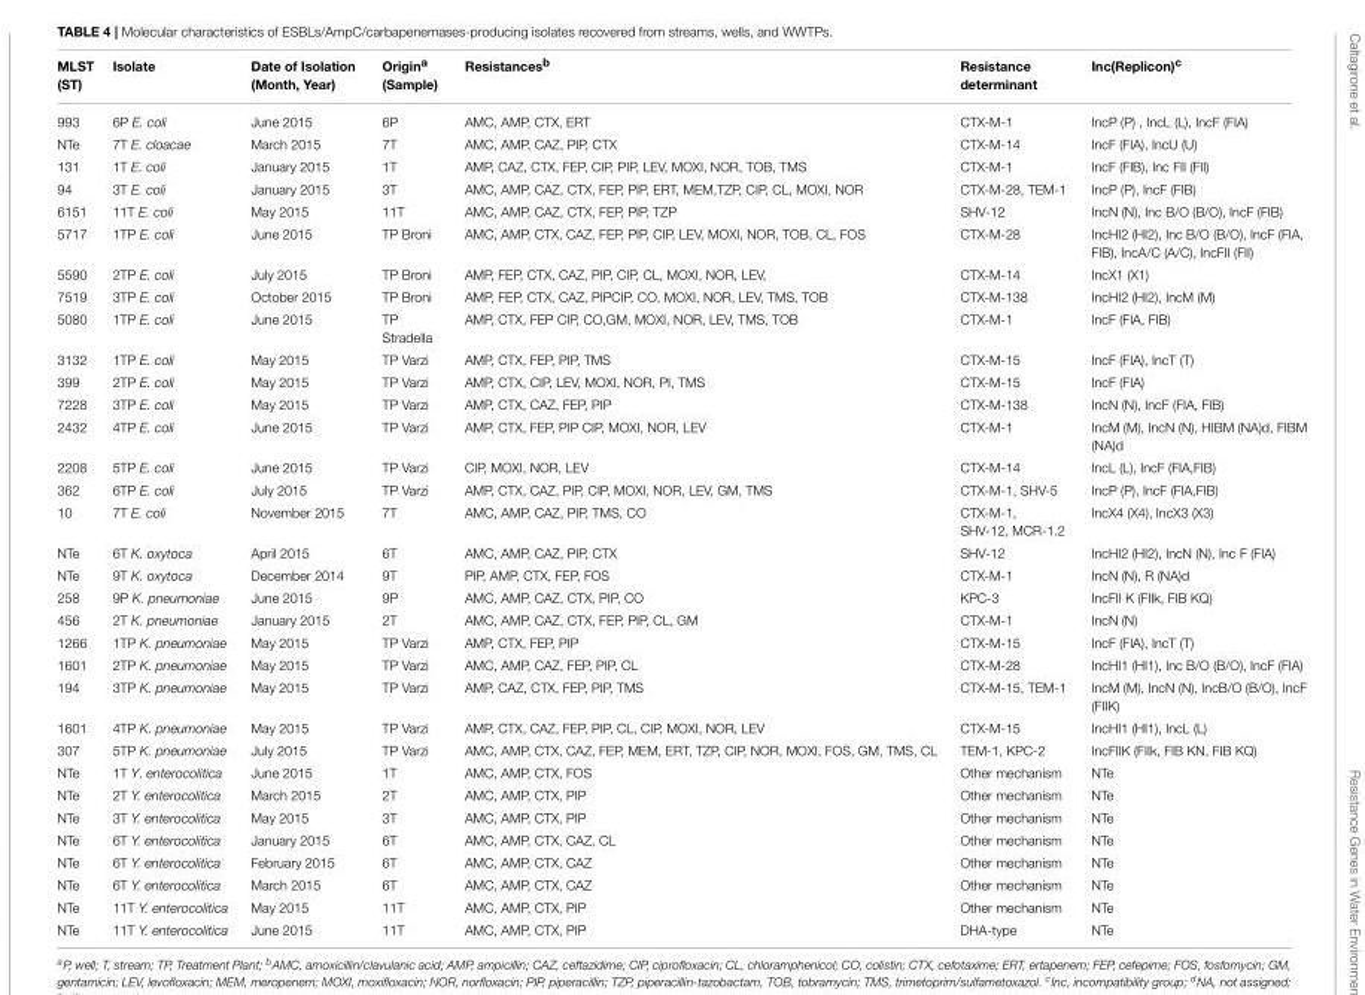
<table><thead><tr><td>MLST (ST)</td><td>Isolate</td><td>Date of Isolation (Month, Year)</td><td>Origin<sup>a</sup> (Sample)</td><td>Resistances<sup>b</sup></td><td>Resistance determinant</td><td>Inc(Replicon)<sup>c</sup></td></tr></thead><tbody><tr><td>993</td><td>6P E. coli</td><td>June 2015</td><td>6P</td><td>AMC, AMP, CTX, ERT</td><td>CTX-M-1</td><td>IncP (P) , IncL (L), IncF (FIA)</td></tr><tr><td>NTe</td><td>7T E. cloacae</td><td>March 2015</td><td>7T</td><td>AMC, AMP, CAZ, PIP, CTX</td><td>CTX-M-14</td><td>IncF (FIA), IncU (U)</td></tr><tr><td>131</td><td>1T E. coli</td><td>January 2015</td><td>1T</td><td>AMP, CAZ, CTX, FEP, CIP, PIP, LEV, MOXI, NOR, TOB, TMS</td><td>CTX-M-1</td><td>IncF (FIB), Inc FII (FII)</td></tr><tr><td>94</td><td>3T E. coli</td><td>January 2015</td><td>3T</td><td>AMC, AMP, CAZ, CTX, FEP, PIP, ERT, MEM,TZP, CIP, CL, MOXI, NOR</td><td>CTX-M-28, TEM-1</td><td>IncP (P), IncF (FIB)</td></tr><tr><td>6151</td><td>11T E. coli</td><td>May 2015</td><td>11T</td><td>AMC, AMP, CAZ, CTX, FEP, PIP, TZP</td><td>SHV-12</td><td>IncN (N), Inc B/O (B/O), IncF (FIB)</td></tr><tr><td>5717</td><td>1TP E. coli</td><td>June 2015</td><td>TP Broni</td><td>AMC, AMP, CTX, CAZ, FEP, PIP, CIP, LEV, MOXI, NOR, TOB, CL, FOS</td><td>CTX-M-28</td><td>IncHI2 (HI2), Inc B/O (B/O), IncF (FIA, FIB), IncA/C (A/C), IncFII (FII)</td></tr><tr><td>5590</td><td>2TP E. coli</td><td>July 2015</td><td>TP Broni</td><td>AMP, FEP, CTX, CAZ, PIP, CIP, CL, MOXI, NOR, LEV,</td><td>CTX-M-14</td><td>IncX1 (X1)</td></tr><tr><td>7519</td><td>3TP E. coli</td><td>October 2015</td><td>TP Broni</td><td>AMP, FEP, CTX, CAZ, PIPCIP, CO, MOXI, NOR, LEV, TMS, TOB</td><td>CTX-M-138</td><td>IncHI2 (HI2), IncM (M)</td></tr><tr><td>5080</td><td>1TP E. coli</td><td>June 2015</td><td>TP Stradella</td><td>AMP, CTX, FEP CIP, CO,GM, MOXI, NOR, LEV, TMS, TOB</td><td>CTX-M-1</td><td>IncF (FIA, FIB)</td></tr><tr><td>3132</td><td>1TP E. coli</td><td>May 2015</td><td>TP Varzi</td><td>AMP, CTX, FEP, PIP, TMS</td><td>CTX-M-15</td><td>IncF (FIA), IncT (T)</td></tr><tr><td>399</td><td>2TP E. coli</td><td>May 2015</td><td>TP Varzi</td><td>AMP, CTX, CIP, LEV, MOXI, NOR, PI, TMS</td><td>CTX-M-15</td><td>IncF (FIA)</td></tr><tr><td>7228</td><td>3TP E. coli</td><td>May 2015</td><td>TP Varzi</td><td>AMP, CTX, CAZ, FEP, PIP</td><td>CTX-M-138</td><td>IncN (N), IncF (FIA, FIB)</td></tr><tr><td>2432</td><td>4TP E. coli</td><td>June 2015</td><td>TP Varzi</td><td>AMP, CTX, FEP, PIP CIP, MOXI, NOR, LEV</td><td>CTX-M-1</td><td>IncM (M), IncN (N), HIBM (NA)d, FIBM (NA)d</td></tr><tr><td>2208</td><td>5TP E. coli</td><td>June 2015</td><td>TP Varzi</td><td>CIP, MOXI, NOR, LEV</td><td>CTX-M-14</td><td>IncL (L), IncF (FIA,FIB)</td></tr><tr><td>362</td><td>6TP E. coli</td><td>July 2015</td><td>TP Varzi</td><td>AMP, CTX, CAZ, PIP, CIP, MOXI, NOR, LEV, GM, TMS</td><td>CTX-M-1, SHV-5</td><td>IncP (P), IncF (FIA,FIB)</td></tr><tr><td>10</td><td>7T E. coli</td><td>November 2015</td><td>7T</td><td>AMC, AMP, CAZ, PIP, TMS, CO</td><td>CTX-M-1, SHV-12, MCR-1.2</td><td>IncX4 (X4), IncX3 (X3)</td></tr><tr><td>NTe</td><td>6T K. oxytoca</td><td>April 2015</td><td>6T</td><td>AMC, AMP, CAZ, PIP, CTX</td><td>SHV-12</td><td>IncHI2 (HI2), IncN (N), Inc F (FIA)</td></tr><tr><td>NTe</td><td>9T K. oxytoca</td><td>December 2014</td><td>9T</td><td>PIP, AMP, CTX, FEP, FOS</td><td>CTX-M-1</td><td>IncN (N), R (NA)d</td></tr><tr><td>258</td><td>9P K. pneumoniae</td><td>June 2015</td><td>9P</td><td>AMC, AMP, CAZ, CTX, PIP, CO</td><td>KPC-3</td><td>IncFII K (FIIk, FIB KQ)</td></tr><tr><td>456</td><td>2T K. pneumoniae</td><td>January 2015</td><td>2T</td><td>AMC, AMP, CAZ, CTX, FEP, PIP, CL, GM</td><td>CTX-M-1</td><td>IncN (N)</td></tr><tr><td>1266</td><td>1TP K. pneumoniae</td><td>May 2015</td><td>TP Varzi</td><td>AMP, CTX, FEP, PIP</td><td>CTX-M-15</td><td>IncF (FIA), IncT (T)</td></tr><tr><td>1601</td><td>2TP K. pneumoniae</td><td>May 2015</td><td>TP Varzi</td><td>AMC, AMP, CAZ, FEP, PIP, CL</td><td>CTX-M-28</td><td>IncHI1 (HI1), Inc B/O (B/O), IncF (FIA)</td></tr><tr><td>194</td><td>3TP K. pneumoniae</td><td>May 2015</td><td>TP Varzi</td><td>AMP, CAZ, CTX, FEP, PIP, TMS</td><td>CTX-M-15, TEM-1</td><td>IncM (M), IncN (N), IncB/O (B/O), IncF (FIIK)</td></tr><tr><td>1601</td><td>4TP K. pneumoniae</td><td>May 2015</td><td>TP Varzi</td><td>AMP, CTX, CAZ, FEP, PIP, CL, CIP, MOXI, NOR, LEV</td><td>CTX-M-15</td><td>IncHI1 (HI1), IncL (L)</td></tr><tr><td>307</td><td>5TP K. pneumoniae</td><td>July 2015</td><td>TP Varzi</td><td>AMC, AMP, CTX, CAZ, FEP, MEM, ERT, TZP, CIP, NOR, MOXI, FOS, GM, TMS, CL</td><td>TEM-1, KPC-2</td><td>IncFIIK (FIIk, FIB KN, FIB KQ)</td></tr><tr><td>NTe</td><td>1T Y. enterocolitica</td><td>June 2015</td><td>1T</td><td>AMC, AMP, CTX, FOS</td><td>Other mechanism</td><td>NTe</td></tr><tr><td>NTe</td><td>2T Y. enterocolitica</td><td>March 2015</td><td>2T</td><td>AMC, AMP, CTX, PIP</td><td>Other mechanism</td><td>NTe</td></tr><tr><td>NTe</td><td>3T Y. enterocolitica</td><td>May 2015</td><td>3T</td><td>AMC, AMP, CTX, PIP</td><td>Other mechanism</td><td>NTe</td></tr><tr><td>NTe</td><td>6T Y. enterocolitica</td><td>January 2015</td><td>6T</td><td>AMC, AMP, CTX, CAZ, CL</td><td>Other mechanism</td><td>NTe</td></tr><tr><td>NTe</td><td>6T Y. enterocolitica</td><td>February 2015</td><td>6T</td><td>AMC, AMP, CTX, CAZ</td><td>Other mechanism</td><td>NTe</td></tr><tr><td>NTe</td><td>6T Y. enterocolitica</td><td>March 2015</td><td>6T</td><td>AMC, AMP, CTX, CAZ</td><td>Other mechanism</td><td>NTe</td></tr><tr><td>NTe</td><td>11T Y. enterocolitica</td><td>May 2015</td><td>11T</td><td>AMC, AMP, CTX, PIP</td><td>Other mechanism</td><td>NTe</td></tr><tr><td>NTe</td><td>11T Y. enterocolitica</td><td>June 2015</td><td>11T</td><td>AMC, AMP, CTX, PIP</td><td>DHA-type</td><td>NTe</td></tr></tbody></table>